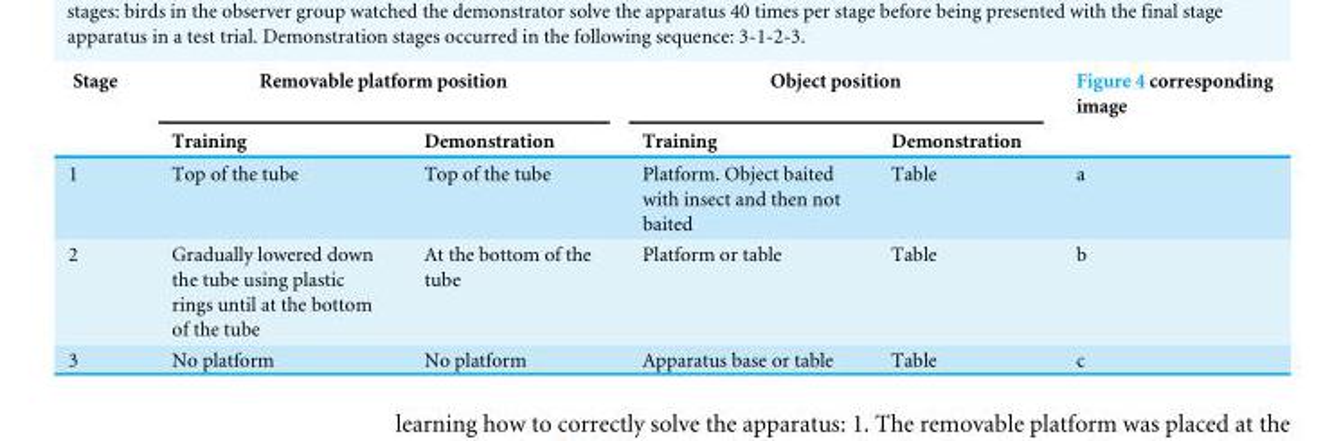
<table><thead><tr><td rowspan="2">Stage</td><td colspan="2">Removable platform position</td><td colspan="2">Object position</td><td rowspan="2">Figure 4 corresponding image</td></tr><tr><td>Training</td><td>Demonstration</td><td>Training</td><td>Demonstration</td></tr></thead><tbody><tr><td>1</td><td>Top of the tube</td><td>Top of the tube</td><td>Platform. Object baited with insect and then not baited</td><td>Table</td><td>a</td></tr><tr><td>2</td><td>Gradually lowered down the tube using plastic rings until at the bottom of the tube</td><td>At the bottom of the tube</td><td>Platform or table</td><td>Table</td><td>b</td></tr><tr><td>3</td><td>No platform</td><td>No platform</td><td>Apparatus base or table</td><td>Table</td><td>c</td></tr></tbody></table>